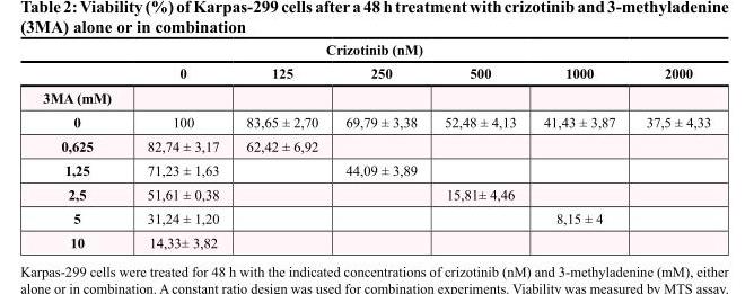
<table><thead><tr><td colspan="7">Crizotinib (nM)</td></tr><tr><td></td><td>0</td><td>125</td><td>250</td><td>500</td><td>1000</td><td>2000</td></tr></thead><tbody><tr><td colspan="7">3MA (mM)</td></tr><tr><td>0</td><td>100</td><td>83,65 ± 2,70</td><td>69,79 ± 3,38</td><td>52,48 ± 4,13</td><td>41,43 ± 3,87</td><td>37,5 ± 4,33</td></tr><tr><td>0,625</td><td>82,74 ± 3,17</td><td>62,42 ± 6,92</td><td></td><td></td><td></td><td></td></tr><tr><td>1,25</td><td>71,23 ± 1,63</td><td></td><td>44,09 ± 3,89</td><td></td><td></td><td></td></tr><tr><td>2,5</td><td>51,61 ± 0,38</td><td></td><td></td><td>15,81± 4,46</td><td></td><td></td></tr><tr><td>5</td><td>31,24 ± 1,20</td><td></td><td></td><td></td><td>8,15 ± 4</td><td></td></tr><tr><td>10</td><td>14,33± 3,82</td><td></td><td></td><td></td><td></td><td></td></tr></tbody></table>